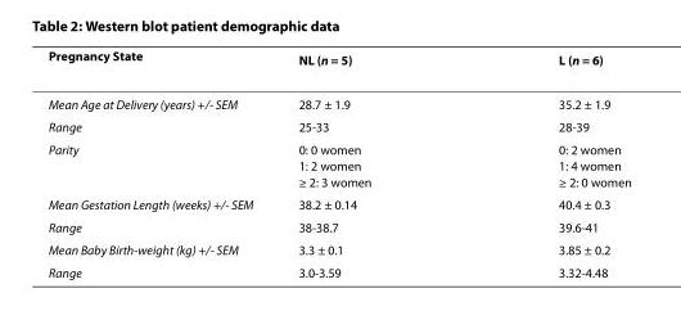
<table><thead><tr><td>Pregnancy State</td><td>NL (n = 5)</td><td>L (n = 6)</td></tr></thead><tbody><tr><td>Mean Age at Delivery (years) +/- SEM</td><td>28.7 ± 1.9</td><td>35.2 ± 1.9</td></tr><tr><td>Range</td><td>25-33</td><td>28-39</td></tr><tr><td>Parity</td><td>0: 0 women 1: 2 women ≥ 2: 3 women</td><td>0: 2 women 1: 4 women ≥ 2: 0 women</td></tr><tr><td>Mean Gestation Length (weeks) +/- SEM</td><td>38.2 ± 0.14</td><td>40.4 ± 0.3</td></tr><tr><td>Range</td><td>38-38.7</td><td>39.6-41</td></tr><tr><td>Mean Baby Birth-weight (kg) +/- SEM</td><td>3.3 ± 0.1</td><td>3.85 ± 0.2</td></tr><tr><td>Range</td><td>3.0-3.59</td><td>3.32-4.48</td></tr></tbody></table>